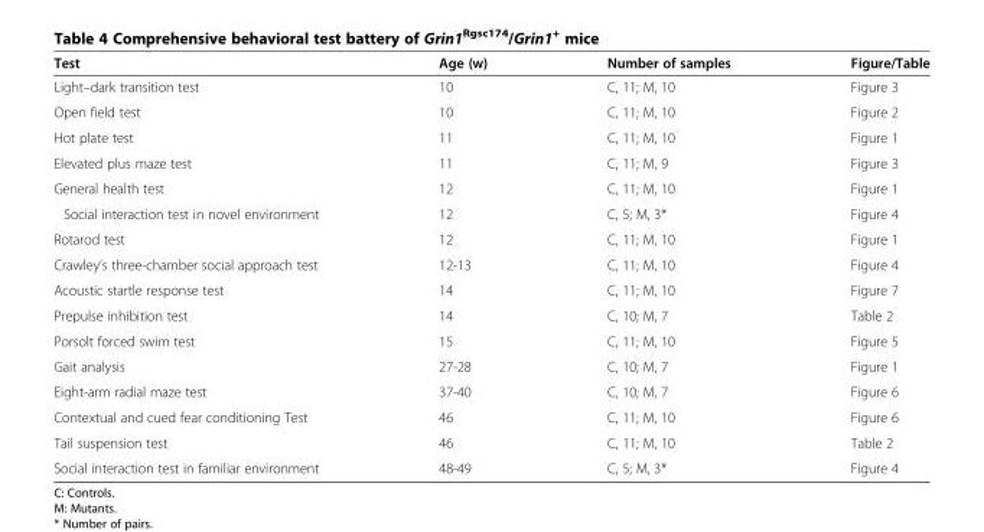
<table><thead><tr><td>Test</td><td>Age (w)</td><td>Number of samples</td><td>Figure/Table</td></tr></thead><tbody><tr><td>Light–dark transition test</td><td>10</td><td>C, 11; M, 10</td><td>Figure 3</td></tr><tr><td>Open field test</td><td>10</td><td>C, 11; M, 10</td><td>Figure 2</td></tr><tr><td>Hot plate test</td><td>11</td><td>C, 11; M, 10</td><td>Figure 1</td></tr><tr><td>Elevated plus maze test</td><td>11</td><td>C, 11; M, 9</td><td>Figure 3</td></tr><tr><td>General health test</td><td>12</td><td>C, 11; M, 10</td><td>Figure 1</td></tr><tr><td>Social interaction test in novel environment</td><td>12</td><td>C, 5; M, 3*</td><td>Figure 4</td></tr><tr><td>Rotarod test</td><td>12</td><td>C, 11; M, 10</td><td>Figure 1</td></tr><tr><td>Crawley’s three-chamber social approach test</td><td>12-13</td><td>C, 11; M, 10</td><td>Figure 4</td></tr><tr><td>Acoustic startle response test</td><td>14</td><td>C, 11; M, 10</td><td>Figure 7</td></tr><tr><td>Prepulse inhibition test</td><td>14</td><td>C, 10; M, 7</td><td>Table 2</td></tr><tr><td>Porsolt forced swim test</td><td>15</td><td>C, 11; M, 10</td><td>Figure 5</td></tr><tr><td>Gait analysis</td><td>27-28</td><td>C, 10; M, 7</td><td>Figure 1</td></tr><tr><td>Eight-arm radial maze test</td><td>37-40</td><td>C, 10; M, 7</td><td>Figure 6</td></tr><tr><td>Contextual and cued fear conditioning Test</td><td>46</td><td>C, 11; M, 10</td><td>Figure 6</td></tr><tr><td>Tail suspension test</td><td>46</td><td>C, 11; M, 10</td><td>Table 2</td></tr><tr><td>Social interaction test in familiar environment</td><td>48-49</td><td>C, 5; M, 3*</td><td>Figure 4</td></tr></tbody></table>